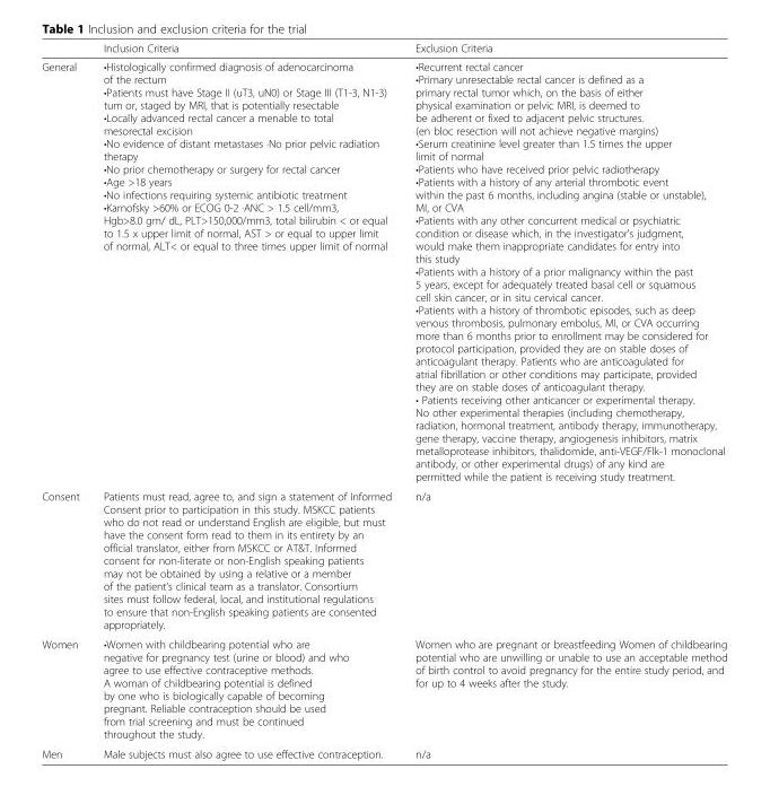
<table><thead><tr><td></td><td>Inclusion Criteria</td><td>Exclusion Criteria</td></tr></thead><tbody><tr><td>General</td><td>•Histologically confirmed diagnosis of adenocarcinoma of the rectum •Patients must have Stage II (uT3, uN0) or Stage III (T1-3, N1-3) tum or, staged by MRI, that is potentially resectable •Locally advanced rectal cancer a menable to total mesorectal excision •No evidence of distant metastases ·No prior pelvic radiation therapy •No prior chemotherapy or surgery for rectal cancer •Age &gt;18 years •No infections requiring systemic antibiotic treatment •Karnofsky &gt;60% or ECOG 0-2 ·ANC &gt; 1.5 cell/mm3, Hgb&gt;8.0 gm/ dL, PLT&gt;150,000/mm3, total bilirubin &lt; or equal to 1.5 x upper limit of normal, AST &gt; or equal to upper limit of normal, ALT&lt; or equal to three times upper limit of normal</td><td>•Recurrent rectal cancer •Primary unresectable rectal cancer is defined as a primary rectal tumor which, on the basis of either physical examination or pelvic MRI, is deemed to be adherent or fixed to adjacent pelvic structures. (en bloc resection will not achieve negative margins) •Serum creatinine level greater than 1.5 times the upper limit of normal •Patients who have received prior pelvic radiotherapy •Patients with a history of any arterial thrombotic event within the past 6 months, including angina (stable or unstable), MI, or CVA •Patients with any other concurrent medical or psychiatric condition or disease which, in the investigator&#x27;s judgment, would make them inappropriate candidates for entry into this study •Patients with a history of a prior malignancy within the past 5 years, except for adequately treated basal cell or squamous cell skin cancer, or in situ cervical cancer. •Patients with a history of thrombotic episodes, such as deep venous thrombosis, pulmonary embolus, MI, or CVA occurring more than 6 months prior to enrollment may be considered for protocol participation, provided they are on stable doses of anticoagulant therapy. Patients who are anticoagulated for atrial fibrillation or other conditions may participate, provided they are on stable doses of anticoagulant therapy. • Patients receiving other anticancer or experimental therapy. No other experimental therapies (including chemotherapy, radiation, hormonal treatment, antibody therapy, immunotherapy, gene therapy, vaccine therapy, angiogenesis inhibitors, matrix metalloprotease inhibitors, thalidomide, anti-VEGF/Flk-1 monoclonal antibody, or other experimental drugs) of any kind are permitted while the patient is receiving study treatment.</td></tr><tr><td>Consent</td><td>Patients must read, agree to, and sign a statement of Informed Consent prior to participation in this study. MSKCC patients who do not read or understand English are eligible, but must have the consent form read to them in its entirety by an official translator, either from MSKCC or AT&amp;T. Informed consent for non-literate or non-English speaking patients may not be obtained by using a relative or a member of the patient’s clinical team as a translator. Consortium sites must follow federal, local, and institutional regulations to ensure that non-English speaking patients are consented appropriately.</td><td>n/a</td></tr><tr><td>Women</td><td>•Women with childbearing potential who are negative for pregnancy test (urine or blood) and who agree to use effective contraceptive methods. A woman of childbearing potential is defined by one who is biologically capable of becoming pregnant. Reliable contraception should be used from trial screening and must be continued throughout the study.</td><td>Women who are pregnant or breastfeeding Women of childbearing potential who are unwilling or unable to use an acceptable method of birth control to avoid pregnancy for the entire study period, and for up to 4 weeks after the study.</td></tr><tr><td>Men</td><td>Male subjects must also agree to use effective contraception.</td><td>n/a</td></tr></tbody></table>